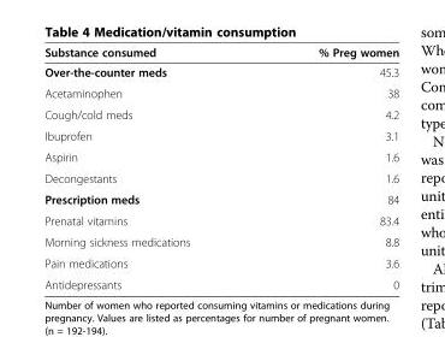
<table><thead><tr><td>Substance consumed</td><td>% Preg women</td></tr></thead><tbody><tr><td>Over-the-counter meds</td><td>45.3</td></tr><tr><td>Acetaminophen</td><td>38</td></tr><tr><td>Cough/cold meds</td><td>4.2</td></tr><tr><td>Ibuprofen</td><td>3.1</td></tr><tr><td>Aspirin</td><td>1.6</td></tr><tr><td>Decongestants</td><td>1.6</td></tr><tr><td>Prescription meds</td><td>84</td></tr><tr><td>Prenatal vitamins</td><td>83.4</td></tr><tr><td>Morning sickness medications</td><td>8.8</td></tr><tr><td>Pain medications</td><td>3.6</td></tr><tr><td>Antidepressants</td><td>0</td></tr></tbody></table>